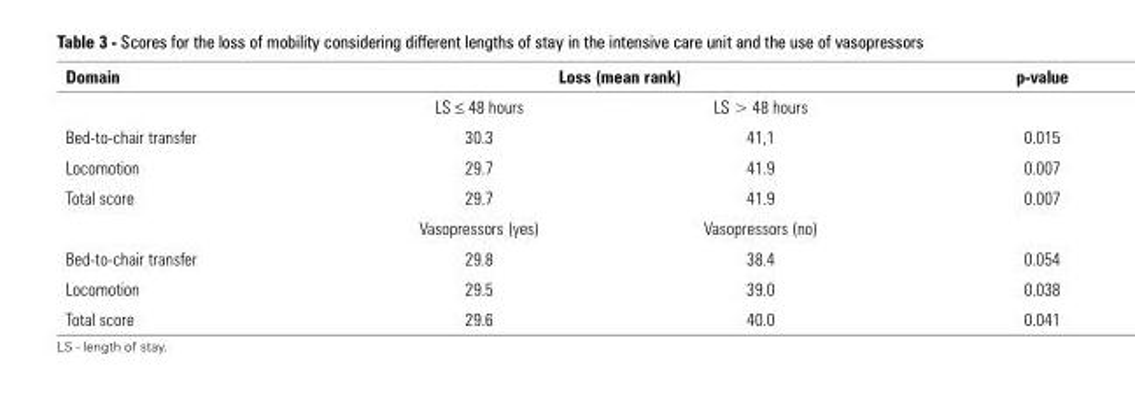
<table><thead><tr><td rowspan="2">Domain</td><td colspan="2">Loss (mean rank)</td><td rowspan="2">p-value</td></tr><tr><td>LS ≤ 48 hours</td><td>LS &gt; 48 hours</td></tr></thead><tbody><tr><td>Bed-to-chair transfer</td><td>30.3</td><td>41,1</td><td>0.015</td></tr><tr><td>Locomotion</td><td>29.7</td><td>41.9</td><td>0.007</td></tr><tr><td rowspan="2">Total score</td><td>29.7</td><td>41.9</td><td>0.007</td></tr><tr><td>Vasopressors (yes)</td><td>Vasopressors (no)</td><td></td></tr><tr><td>Bed-to-chair transfer</td><td>29.8</td><td>38.4</td><td>0.054</td></tr><tr><td>Locomotion</td><td>29.5</td><td>39.0</td><td>0.038</td></tr><tr><td>Total score</td><td>29.6</td><td>40.0</td><td>0.041</td></tr></tbody></table>